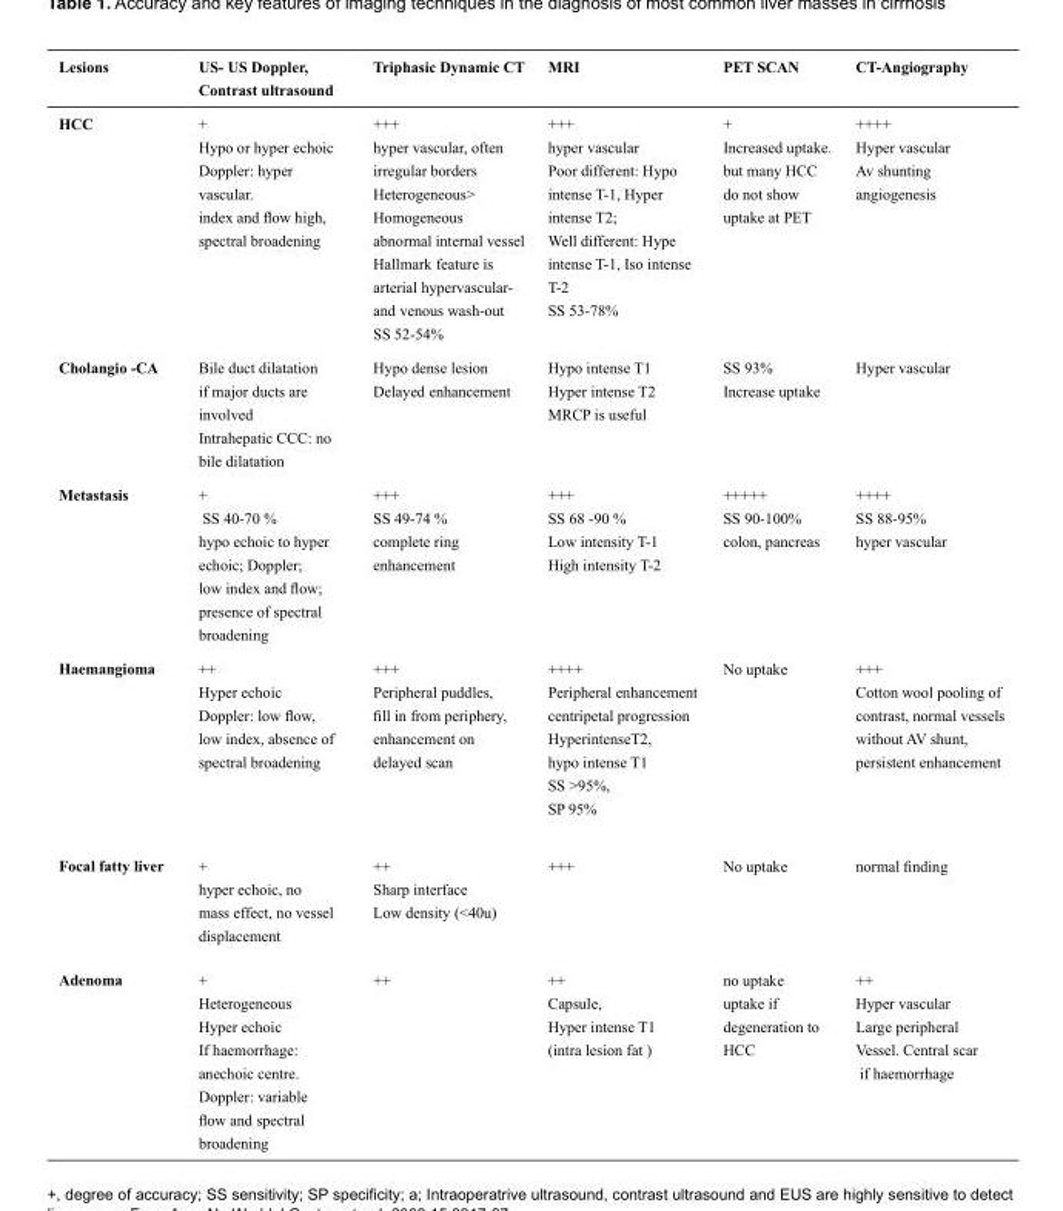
<table><thead><tr><td>Lesions</td><td>US- US Doppler, Contrast ultrasound</td><td>Triphasic Dynamic CT</td><td>MRI</td><td>PET SCAN</td><td>CT-Angiography</td></tr></thead><tbody><tr><td>HCC</td><td>+ Hypo or hyper echoic Doppler: hyper vascular. index and flow high, spectral broadening</td><td>+++ hyper vascular, often irregular borders Heterogeneous&gt; Homogeneous abnormal internal vessel Hallmark feature is arterial hypervascular- and venous wash-out SS 52-54%</td><td>+++ hyper vascular Poor different: Hypo intense T-1, Hyper intense T2; Well different: Hype intense T-1, Iso intense T-2 SS 53-78%</td><td>+ Increased uptake. but many HCC do not show uptake at PET</td><td>++++ Hyper vascular Av shunting angiogenesis</td></tr><tr><td>Cholangio -CA</td><td>Bile duct dilatation if major ducts are involved Intrahepatic CCC: no bile dilatation</td><td>Hypo dense lesion Delayed enhancement</td><td>Hypo intense T1 Hyper intense T2 MRCP is useful</td><td>SS 93% Increase uptake</td><td>Hyper vascular</td></tr><tr><td>Metastasis</td><td>+ SS 40-70 % hypo echoic to hyper echoic; Doppler; low index and flow; presence of spectral broadening</td><td>+++ SS 49-74 % complete ring enhancement</td><td>+++ SS 68 -90 % Low intensity T-1 High intensity T-2</td><td>+++++ SS 90-100% colon, pancreas</td><td>++++ SS 88-95% hyper vascular</td></tr><tr><td>Haemangioma</td><td>++ Hyper echoic Doppler: low flow, low index, absence of spectral broadening</td><td>+++ Peripheral puddles, fill in from periphery, enhancement on delayed scan</td><td>++++ Peripheral enhancement centripetal progression HyperintenseT2, hypo intense T1 SS &gt;95%, SP 95%</td><td>No uptake</td><td>+++ Cotton wool pooling of contrast, normal vessels without AV shunt, persistent enhancement</td></tr><tr><td>Focal fatty liver</td><td>+ hyper echoic, no mass effect, no vessel displacement</td><td>++ Sharp interface Low density (&lt;40u)</td><td>+++</td><td>No uptake</td><td>normal finding</td></tr><tr><td>Adenoma</td><td>+ Heterogeneous Hyper echoic If haemorrhage: anechoic centre. Doppler: variable flow and spectral broadening</td><td>++</td><td>++ Capsule, Hyper intense T1 (intra lesion fat )</td><td>no uptake uptake if degeneration to HCC</td><td>++ Hyper vascular Large peripheral Vessel. Central scar if haemorrhage</td></tr></tbody></table>